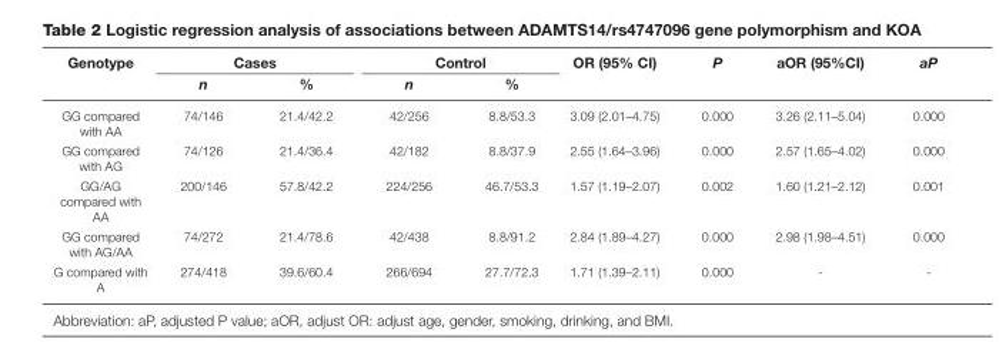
<table><thead><tr><td rowspan="2">Genotype</td><td colspan="2">Cases</td><td colspan="2">Control</td><td rowspan="2">OR (95% CI)</td><td rowspan="2">P</td><td rowspan="2">aOR (95%CI)</td><td rowspan="2">aP</td></tr><tr><td>n</td><td>%</td><td>n</td><td>%</td></tr></thead><tbody><tr><td>GG compared with AA</td><td>74/146</td><td>21.4/42.2</td><td>42/256</td><td>8.8/53.3</td><td>3.09 (2.01–4.75)</td><td>0.000</td><td>3.26 (2.11–5.04)</td><td>0.000</td></tr><tr><td>GG compared with AG</td><td>74/126</td><td>21.4/36.4</td><td>42/182</td><td>8.8/37.9</td><td>2.55 (1.64–3.96)</td><td>0.000</td><td>2.57 (1.65–4.02)</td><td>0.000</td></tr><tr><td>GG/AG compared with AA</td><td>200/146</td><td>57.8/42.2</td><td>224/256</td><td>46.7/53.3</td><td>1.57 (1.19–2.07)</td><td>0.002</td><td>1.60 (1.21–2.12)</td><td>0.001</td></tr><tr><td>GG compared with AG/AA</td><td>74/272</td><td>21.4/78.6</td><td>42/438</td><td>8.8/91.2</td><td>2.84 (1.89–4.27)</td><td>0.000</td><td>2.98 (1.98–4.51)</td><td>0.000</td></tr><tr><td>G compared with A</td><td>274/418</td><td>39.6/60.4</td><td>266/694</td><td>27.7/72.3</td><td>1.71 (1.39–2.11)</td><td>0.000</td><td>-</td><td>-</td></tr></tbody></table>